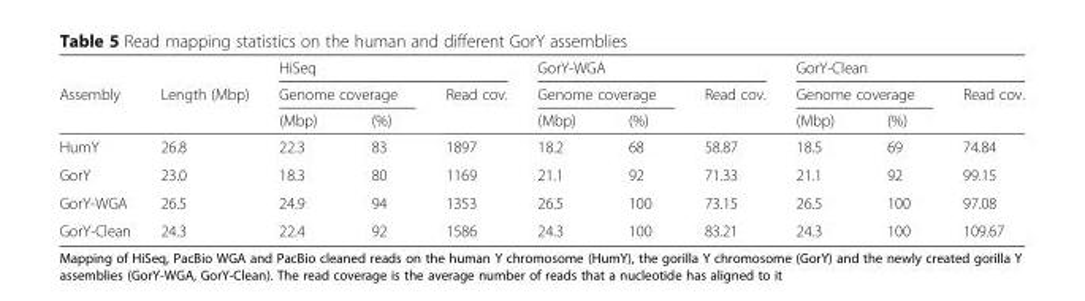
<table><thead><tr><td rowspan="3">Assembly</td><td rowspan="3">Length (Mbp)</td><td colspan="3">HiSeq</td><td colspan="3">GorY-WGA</td><td colspan="3">GorY-Clean</td></tr><tr><td colspan="2">Genome coverage</td><td rowspan="2">Read cov.</td><td colspan="2">Genome coverage</td><td rowspan="2">Read cov.</td><td colspan="2">Genome coverage</td><td rowspan="2">Read cov.</td></tr><tr><td>(Mbp)</td><td>(%)</td><td>(Mbp)</td><td>(%)</td><td>(Mbp)</td><td>(%)</td></tr></thead><tbody><tr><td>HumY</td><td>26.8</td><td>22.3</td><td>83</td><td>1897</td><td>18.2</td><td>68</td><td>58.87</td><td>18.5</td><td>69</td><td>74.84</td></tr><tr><td>GorY</td><td>23.0</td><td>18.3</td><td>80</td><td>1169</td><td>21.1</td><td>92</td><td>71.33</td><td>21.1</td><td>92</td><td>99.15</td></tr><tr><td>GorY-WGA</td><td>26.5</td><td>24.9</td><td>94</td><td>1353</td><td>26.5</td><td>100</td><td>73.15</td><td>26.5</td><td>100</td><td>97.08</td></tr><tr><td>GorY-Clean</td><td>24.3</td><td>22.4</td><td>92</td><td>1586</td><td>24.3</td><td>100</td><td>83.21</td><td>24.3</td><td>100</td><td>109.67</td></tr></tbody></table>